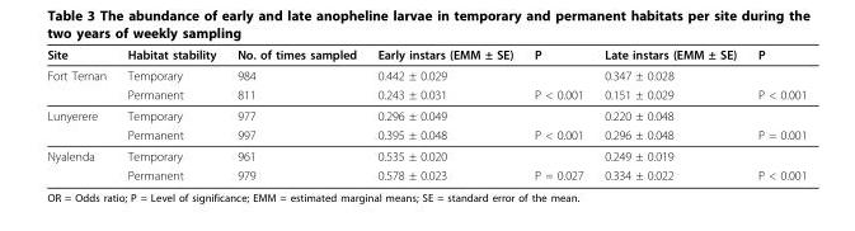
<table><thead><tr><td>Site</td><td>Habitat stability</td><td>No. of times sampled</td><td>Early instars (EMM ± SE)</td><td>P</td><td>Late instars (EMM ± SE)</td><td>P</td></tr></thead><tbody><tr><td rowspan="2">Fort Ternan</td><td>Temporary</td><td>984</td><td>0.442 ± 0.029</td><td></td><td>0.347 ± 0.028</td><td></td></tr><tr><td>Permanent</td><td>811</td><td>0.243 ± 0.031</td><td>P &lt; 0.001</td><td>0.151 ± 0.029</td><td>P &lt; 0.001</td></tr><tr><td rowspan="2">Lunyerere</td><td>Temporary</td><td>977</td><td>0.296 ± 0.049</td><td></td><td>0.220 ± 0.048</td><td></td></tr><tr><td>Permanent</td><td>997</td><td>0.395 ± 0.048</td><td>P &lt; 0.001</td><td>0.296 ± 0.048</td><td>P = 0.001</td></tr><tr><td rowspan="2">Nyalenda</td><td>Temporary</td><td>961</td><td>0.535 ± 0.020</td><td></td><td>0.249 ± 0.019</td><td></td></tr><tr><td>Permanent</td><td>979</td><td>0.578 ± 0.023</td><td>P = 0.027</td><td>0.334 ± 0.022</td><td>P &lt; 0.001</td></tr></tbody></table>